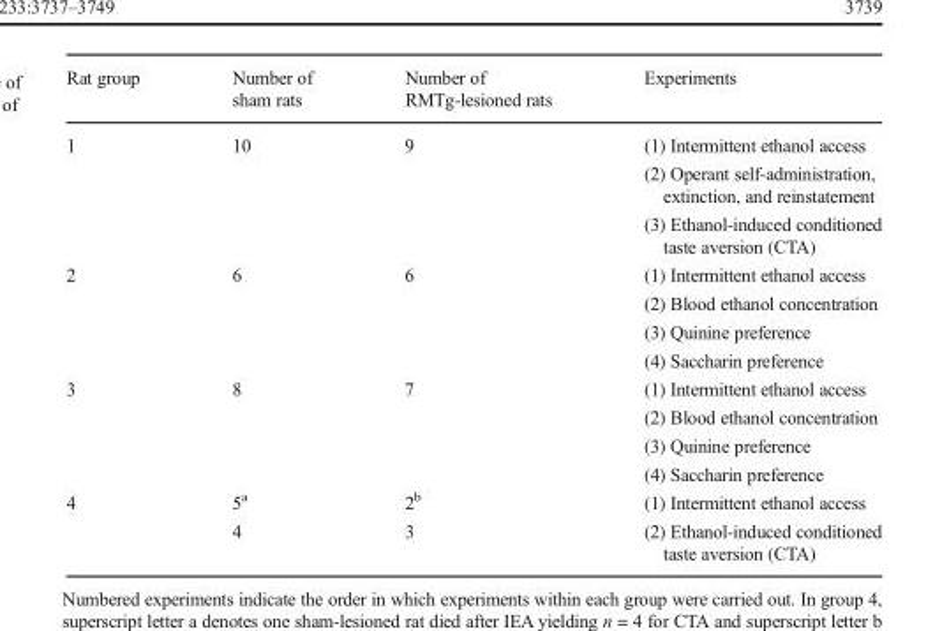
<table><thead><tr><td>Rat group</td><td>Number of sham rats</td><td>Number of RMTg-lesioned rats</td><td>Experiments</td></tr></thead><tbody><tr><td>1</td><td>10</td><td>9</td><td>(1) Intermittent ethanol access (2) Operant self-administration, extinction, and reinstatement (3) Ethanol-induced conditioned taste aversion (CTA)</td></tr><tr><td>2</td><td>6</td><td>6</td><td>(1) Intermittent ethanol access (2) Blood ethanol concentration (3) Quinine preference (4) Saccharin preference</td></tr><tr><td>3</td><td>8</td><td>7</td><td>(1) Intermittent ethanol access (2) Blood ethanol concentration (3) Quinine preference (4) Saccharin preference</td></tr><tr><td>4</td><td>5<sup>a</sup> 4</td><td>2<sup>b</sup> 3</td><td>(1) Intermittent ethanol access (2) Ethanol-induced conditioned taste aversion (CTA)</td></tr></tbody></table>